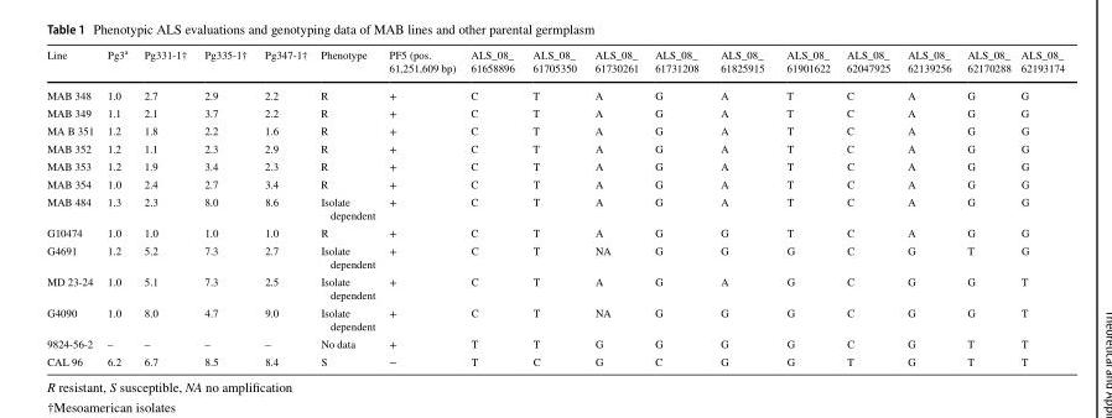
<table><thead><tr><td>Line</td><td>Pg3<sup>a</sup></td><td>Pg331-1†</td><td>Pg335-1†</td><td>Pg347-1†</td><td>Phenotype</td><td>PF5 (pos. 61,251,609 bp)</td><td>ALS_08_ 61658896</td><td>ALS_08_ 61705350</td><td>ALS_08_ 61730261</td><td>ALS_08_ 61731208</td><td>ALS_08_ 61825915</td><td>ALS_08_ 61901622</td><td>ALS_08_ 62047925</td><td>ALS_08_ 62139256</td><td>ALS_08_ 62170288</td><td>ALS_08_ 62193174</td></tr></thead><tbody><tr><td>MAB 348</td><td>1.0</td><td>2.7</td><td>2.9</td><td>2.2</td><td>R</td><td>+</td><td>C</td><td>T</td><td>A</td><td>G</td><td>A</td><td>T</td><td>C</td><td>A</td><td>G</td><td>G</td></tr><tr><td>MAB 349</td><td>1.1</td><td>2.1</td><td>3.7</td><td>2.2</td><td>R</td><td>+</td><td>C</td><td>T</td><td>A</td><td>G</td><td>A</td><td>T</td><td>C</td><td>A</td><td>G</td><td>G</td></tr><tr><td>MA B 351</td><td>1.2</td><td>1.8</td><td>2.2</td><td>1.6</td><td>R</td><td>+</td><td>C</td><td>T</td><td>A</td><td>G</td><td>A</td><td>T</td><td>C</td><td>A</td><td>G</td><td>G</td></tr><tr><td>MAB 352</td><td>1.2</td><td>1.1</td><td>2.3</td><td>2.9</td><td>R</td><td>+</td><td>C</td><td>T</td><td>A</td><td>G</td><td>A</td><td>T</td><td>C</td><td>A</td><td>G</td><td>G</td></tr><tr><td>MAB 353</td><td>1.2</td><td>1.9</td><td>3.4</td><td>2.3</td><td>R</td><td>+</td><td>C</td><td>T</td><td>A</td><td>G</td><td>A</td><td>T</td><td>C</td><td>A</td><td>G</td><td>G</td></tr><tr><td>MAB 354</td><td>1.0</td><td>2.4</td><td>2.7</td><td>3.4</td><td>R</td><td>+</td><td>C</td><td>T</td><td>A</td><td>G</td><td>A</td><td>T</td><td>C</td><td>A</td><td>G</td><td>G</td></tr><tr><td>MAB 484</td><td>1.3</td><td>2.3</td><td>8.0</td><td>8.6</td><td>Isolate dependent</td><td>+</td><td>C</td><td>T</td><td>A</td><td>G</td><td>A</td><td>T</td><td>C</td><td>A</td><td>G</td><td>G</td></tr><tr><td>G10474</td><td>1.0</td><td>1.0</td><td>1.0</td><td>1.0</td><td>R</td><td>+</td><td>C</td><td>T</td><td>A</td><td>G</td><td>G</td><td>T</td><td>C</td><td>A</td><td>G</td><td>G</td></tr><tr><td>G4691</td><td>1.2</td><td>5.2</td><td>7.3</td><td>2.7</td><td>Isolate dependent</td><td>+</td><td>C</td><td>T</td><td>NA</td><td>G</td><td>G</td><td>G</td><td>C</td><td>G</td><td>T</td><td>G</td></tr><tr><td>MD 23-24</td><td>1.0</td><td>5.1</td><td>7.3</td><td>2.5</td><td>Isolate dependent</td><td>+</td><td>C</td><td>T</td><td>A</td><td>G</td><td>A</td><td>G</td><td>C</td><td>G</td><td>G</td><td>T</td></tr><tr><td>G4090</td><td>1.0</td><td>8.0</td><td>4.7</td><td>9.0</td><td>Isolate dependent</td><td>+</td><td>C</td><td>T</td><td>NA</td><td>G</td><td>G</td><td>G</td><td>C</td><td>G</td><td>G</td><td>T</td></tr><tr><td>9824-56-2</td><td>–</td><td>–</td><td>–</td><td>–</td><td>No data</td><td>+</td><td>T</td><td>T</td><td>G</td><td>G</td><td>G</td><td>G</td><td>C</td><td>G</td><td>T</td><td>T</td></tr><tr><td>CAL 96</td><td>6.2</td><td>6.7</td><td>8.5</td><td>8.4</td><td>S</td><td>−</td><td>T</td><td>C</td><td>G</td><td>C</td><td>G</td><td>G</td><td>T</td><td>G</td><td>T</td><td>T</td></tr></tbody></table>